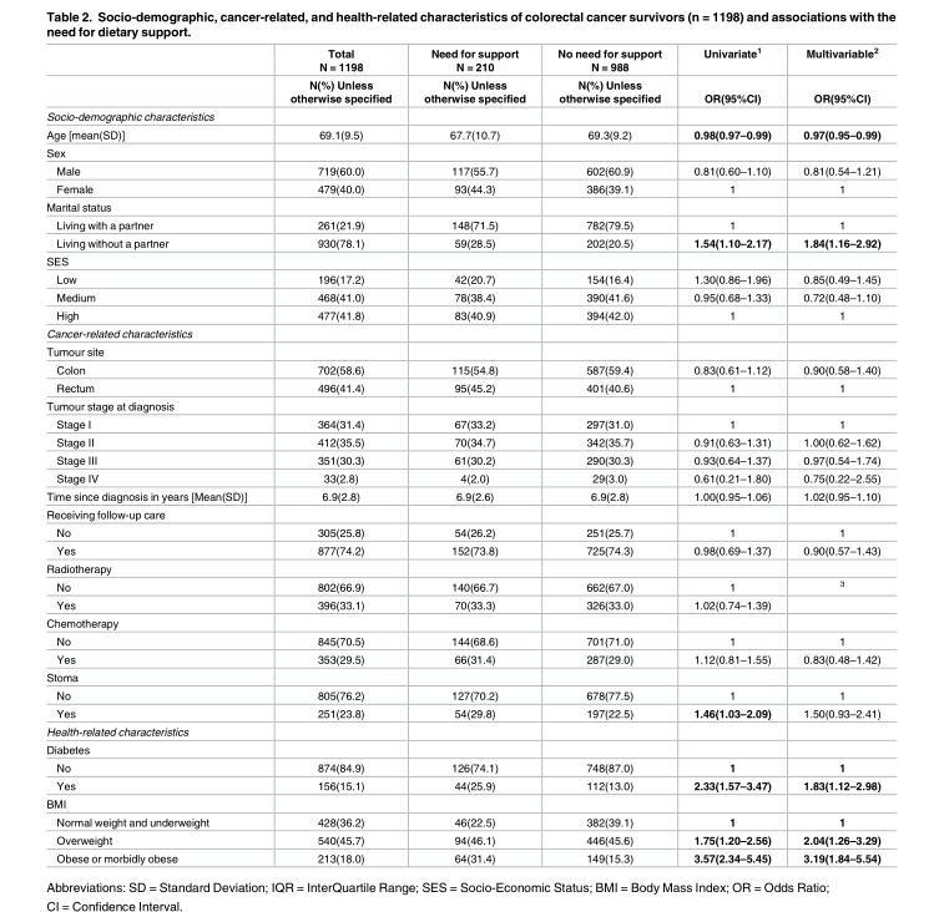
<table><thead><tr><td rowspan="2"></td><td rowspan="2">Total N = 1198 N(%) Unless otherwise specified</td><td rowspan="2">Need for support N = 210 N(%) Unless otherwise specified</td><td rowspan="2">No need for support N = 988 N(%) Unless otherwise specified</td><td rowspan="2">Univariate<sup>1</sup> OR(95%CI)</td><td rowspan="2">Multivariable<sup>2</sup> OR(95%CI)</td></tr><tr></tr></thead><tbody><tr><td colspan="6">Socio-demographic characteristics</td></tr><tr><td>Age [mean(SD)]</td><td>69.1(9.5)</td><td>67.7(10.7)</td><td>69.3(9.2)</td><td>0.98(0.97–0.99)</td><td>0.97(0.95–0.99)</td></tr><tr><td colspan="6">Sex</td></tr><tr><td>Male</td><td>719(60.0)</td><td>117(55.7)</td><td>602(60.9)</td><td>0.81(0.60–1.10)</td><td>0.81(0.54–1.21)</td></tr><tr><td>Female</td><td>479(40.0)</td><td>93(44.3)</td><td>386(39.1)</td><td>1</td><td>1</td></tr><tr><td colspan="6">Marital status</td></tr><tr><td>Living with a partner</td><td>261(21.9)</td><td>148(71.5)</td><td>782(79.5)</td><td>1</td><td>1</td></tr><tr><td>Living without a partner</td><td>930(78.1)</td><td>59(28.5)</td><td>202(20.5)</td><td>1.54(1.10–2.17)</td><td>1.84(1.16–2.92)</td></tr><tr><td colspan="6">SES</td></tr><tr><td>Low</td><td>196(17.2)</td><td>42(20.7)</td><td>154(16.4)</td><td>1.30(0.86–1.96)</td><td>0.85(0.49–1.45)</td></tr><tr><td>Medium</td><td>468(41.0)</td><td>78(38.4)</td><td>390(41.6)</td><td>0.95(0.68–1.33)</td><td>0.72(0.48–1.10)</td></tr><tr><td>High</td><td>477(41.8)</td><td>83(40.9)</td><td>394(42.0)</td><td>1</td><td>1</td></tr><tr><td colspan="6">Cancer-related characteristics</td></tr><tr><td colspan="6">Tumour site</td></tr><tr><td>Colon</td><td>702(58.6)</td><td>115(54.8)</td><td>587(59.4)</td><td>0.83(0.61–1.12)</td><td>0.90(0.58–1.40)</td></tr><tr><td>Rectum</td><td>496(41.4)</td><td>95(45.2)</td><td>401(40.6)</td><td>1</td><td>1</td></tr><tr><td colspan="6">Tumour stage at diagnosis</td></tr><tr><td>Stage I</td><td>364(31.4)</td><td>67(33.2)</td><td>297(31.0)</td><td>1</td><td>1</td></tr><tr><td>Stage II</td><td>412(35.5)</td><td>70(34.7)</td><td>342(35.7)</td><td>0.91(0.63–1.31)</td><td>1.00(0.62–1.62)</td></tr><tr><td>Stage III</td><td>351(30.3)</td><td>61(30.2)</td><td>290(30.3)</td><td>0.93(0.64–1.37)</td><td>0.97(0.54–1.74)</td></tr><tr><td>Stage IV</td><td>33(2.8)</td><td>4(2.0)</td><td>29(3.0)</td><td>0.61(0.21–1.80)</td><td>0.75(0.22–2.55)</td></tr><tr><td>Time since diagnosis in years [Mean(SD)]</td><td>6.9(2.8)</td><td>6.9(2.6)</td><td>6.9(2.8)</td><td>1.00(0.95–1.06)</td><td>1.02(0.95–1.10)</td></tr><tr><td colspan="6">Receiving follow-up care</td></tr><tr><td>No</td><td>305(25.8)</td><td>54(26.2)</td><td>251(25.7)</td><td>1</td><td>1</td></tr><tr><td>Yes</td><td>877(74.2)</td><td>152(73.8)</td><td>725(74.3)</td><td>0.98(0.69–1.37)</td><td>0.90(0.57–1.43)</td></tr><tr><td colspan="6">Radiotherapy</td></tr><tr><td>No</td><td>802(66.9)</td><td>140(66.7)</td><td>662(67.0)</td><td>1</td><td><sup>3</sup></td></tr><tr><td>Yes</td><td>396(33.1)</td><td>70(33.3)</td><td>326(33.0)</td><td>1.02(0.74–1.39)</td><td></td></tr><tr><td colspan="6">Chemotherapy</td></tr><tr><td>No</td><td>845(70.5)</td><td>144(68.6)</td><td>701(71.0)</td><td>1</td><td>1</td></tr><tr><td>Yes</td><td>353(29.5)</td><td>66(31.4)</td><td>287(29.0)</td><td>1.12(0.81–1.55)</td><td>0.83(0.48–1.42)</td></tr><tr><td colspan="6">Stoma</td></tr><tr><td>No</td><td>805(76.2)</td><td>127(70.2)</td><td>678(77.5)</td><td>1</td><td>1</td></tr><tr><td>Yes</td><td>251(23.8)</td><td>54(29.8)</td><td>197(22.5)</td><td>1.46(1.03–2.09)</td><td>1.50(0.93–2.41)</td></tr><tr><td colspan="6">Health-related characteristics</td></tr><tr><td colspan="6">Diabetes</td></tr><tr><td>No</td><td>874(84.9)</td><td>126(74.1)</td><td>748(87.0)</td><td>1</td><td>1</td></tr><tr><td>Yes</td><td>156(15.1)</td><td>44(25.9)</td><td>112(13.0)</td><td>2.33(1.57–3.47)</td><td>1.83(1.12–2.98)</td></tr><tr><td colspan="6">BMI</td></tr><tr><td>Normal weight and underweight</td><td>428(36.2)</td><td>46(22.5)</td><td>382(39.1)</td><td>1</td><td>1</td></tr><tr><td>Overweight</td><td>540(45.7)</td><td>94(46.1)</td><td>446(45.6)</td><td>1.75(1.20–2.56)</td><td>2.04(1.26–3.29)</td></tr><tr><td>Obese or morbidly obese</td><td>213(18.0)</td><td>64(31.4)</td><td>149(15.3)</td><td>3.57(2.34–5.45)</td><td>3.19(1.84–5.54)</td></tr></tbody></table>